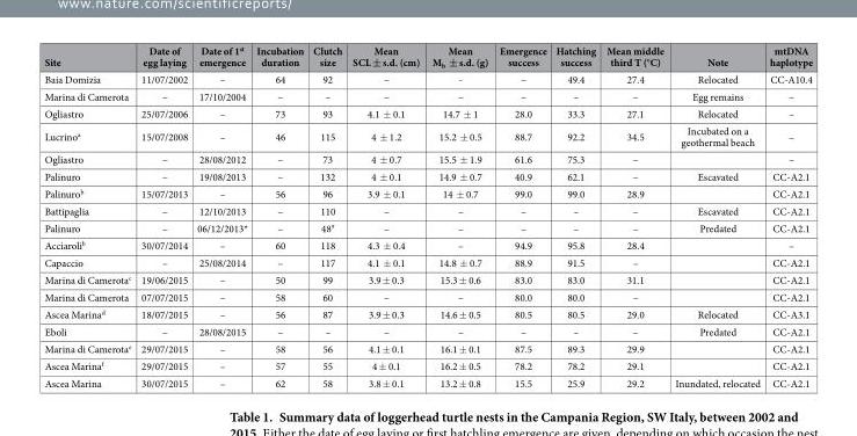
<table><thead><tr><td>Site</td><td>Date of egg laying</td><td>Date of 1<sup>st</sup> emergence</td><td>Incubation duration</td><td>Clutch size</td><td>Mean SCL ± s.d. (cm)</td><td>Mean M<sub>b</sub> ± s.d. (g)</td><td>Emergence success</td><td>Hatching success</td><td>Mean middle third T (°C)</td><td>Note</td><td>mtDNA haplotype</td></tr></thead><tbody><tr><td>Baia Domizia</td><td>11/07/2002</td><td>–</td><td>64</td><td>92</td><td>–</td><td>-</td><td>–</td><td>49.4</td><td>27.4</td><td>Relocated</td><td>CC-A10.4</td></tr><tr><td>Marina di Camerota</td><td>–</td><td>17/10/2004</td><td>–</td><td>–</td><td>–</td><td>–</td><td>–</td><td>–</td><td>–</td><td>Egg remains</td><td>–</td></tr><tr><td>Ogliastro</td><td>25/07/2006</td><td>–</td><td>73</td><td>93</td><td>4.1 ± 0.1</td><td>14.7 ± 1</td><td>28.0</td><td>33.3</td><td>27.1</td><td>Relocated</td><td>–</td></tr><tr><td>Lucrino<sup>a</sup></td><td>15/07/2008</td><td>–</td><td>46</td><td>115</td><td>4 ± 1.2</td><td>15.2 ± 0.5</td><td>88.7</td><td>92.2</td><td>34.5</td><td>Incubated on a geothermal beach</td><td>–</td></tr><tr><td>Ogliastro</td><td>–</td><td>28/08/2012</td><td>–</td><td>73</td><td>4 ± 0.7</td><td>15.5 ± 1.9</td><td>61.6</td><td>75.3</td><td>–</td><td></td><td>–</td></tr><tr><td>Palinuro</td><td>–</td><td>19/08/2013</td><td>–</td><td>132</td><td>4 ± 0.1</td><td>14.9 ± 0.7</td><td>40.9</td><td>62.1</td><td>–</td><td>Escavated</td><td>CC-A2.1</td></tr><tr><td>Palinuro<sup>b</sup></td><td>15/07/2013</td><td>–</td><td>56</td><td>96</td><td>3.9 ± 0.1</td><td>14 ± 0.7</td><td>99.0</td><td>99.0</td><td>28.9</td><td></td><td>CC-A2.1</td></tr><tr><td>Battipaglia</td><td>–</td><td>12/10/2013</td><td>–</td><td>110</td><td>–</td><td>–</td><td>–</td><td>–</td><td>–</td><td>Escavated</td><td>CC-A2.1</td></tr><tr><td>Palinuro</td><td>–</td><td>06/12/2013*</td><td>–</td><td>48<sup>#</sup></td><td>–</td><td>–</td><td>–</td><td>–</td><td>–</td><td>Predated</td><td>CC-A2.1</td></tr><tr><td>Acciaroli<sup>b</sup></td><td>30/07/2014</td><td>–</td><td>60</td><td>118</td><td>4.3 ± 0.4</td><td>–</td><td>94.9</td><td>95.8</td><td>28.4</td><td></td><td>–</td></tr><tr><td>Capaccio</td><td>–</td><td>25/08/2014</td><td>–</td><td>117</td><td>4.1 ± 0.1</td><td>14.8 ± 0.7</td><td>88.9</td><td>91.5</td><td>–</td><td></td><td>CC-A2.1</td></tr><tr><td>Marina di Camerota<sup>c</sup></td><td>19/06/2015</td><td>–</td><td>50</td><td>99</td><td>3.9 ± 0.3</td><td>15.3 ± 0.6</td><td>83.0</td><td>83.0</td><td>31.1</td><td></td><td>CC-A2.1</td></tr><tr><td>Marina di Camerota</td><td>07/07/2015</td><td>–</td><td>58</td><td>60</td><td>–</td><td>–</td><td>80.0</td><td>80.0</td><td>–</td><td></td><td>CC-A2.1</td></tr><tr><td>Ascea Marina<sup>d</sup></td><td>18/07/2015</td><td>–</td><td>56</td><td>87</td><td>3.9 ± 0.3</td><td>14.6 ± 0.5</td><td>80.5</td><td>80.5</td><td>29.0</td><td>Relocated</td><td>CC-A3.1</td></tr><tr><td>Eboli</td><td>–</td><td>28/08/2015</td><td>–</td><td>–</td><td>–</td><td>–</td><td>–</td><td>–</td><td>–</td><td>Predated</td><td>CC-A2.1</td></tr><tr><td>Marina di Camerota<sup>e</sup></td><td>29/07/2015</td><td>–</td><td>58</td><td>56</td><td>4.1 ± 0.1</td><td>16.1 ± 0.1</td><td>87.5</td><td>89.3</td><td>29.9</td><td></td><td>CC-A2.1</td></tr><tr><td>Ascea Marina<sup>f</sup></td><td>29/07/2015</td><td>–</td><td>57</td><td>55</td><td>4 ± 0.1</td><td>16.2 ± 0.5</td><td>78.2</td><td>78.2</td><td>29.1</td><td></td><td>CC-A2.1</td></tr><tr><td>Ascea Marina</td><td>30/07/2015</td><td>–</td><td>62</td><td>58</td><td>3.8 ± 0.1</td><td>13.2 ± 0.8</td><td>15.5</td><td>25.9</td><td>29.2</td><td>Inundated, relocated</td><td>CC-A2.1</td></tr></tbody></table>